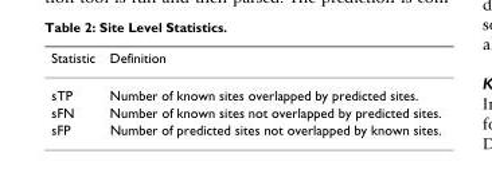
<table><thead><tr><td>Statistic</td><td>Definition</td></tr></thead><tbody><tr><td>sTP</td><td>Number of known sites overlapped by predicted sites.</td></tr><tr><td>sFN</td><td>Number of known sites not overlapped by predicted sites.</td></tr><tr><td>sFP</td><td>Number of predicted sites not overlapped by known sites.</td></tr></tbody></table>